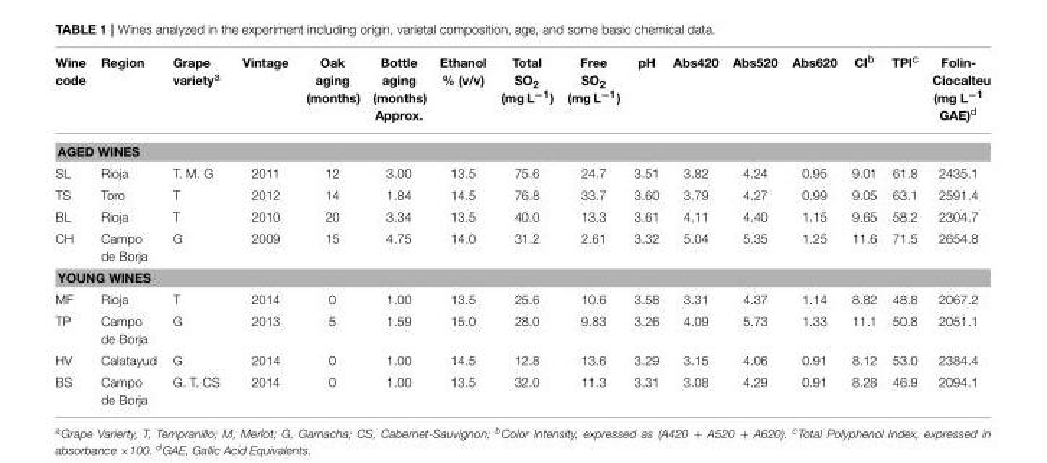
<table><thead><tr><td>Wine code</td><td>Region</td><td>Grape variety<sup>a</sup></td><td>Vintage</td><td>Oak aging (months)</td><td>Bottle aging (months) Approx.</td><td>Ethanol % (v/v)</td><td>Total SO<sub>2</sub> (mg L<sup>−1</sup>)</td><td>Free SO<sub>2</sub> (mg L<sup>−1</sup>)</td><td>pH</td><td>Abs420</td><td>Abs520</td><td>Abs620</td><td>CI<sup>b</sup></td><td>TPI<sup>c</sup></td><td>Folin- Ciocalteu (mg L<sup>−1</sup> GAE)<sup>d</sup></td></tr></thead><tbody><tr><td colspan="16">AGED WINES</td></tr><tr><td>SL</td><td>Rioja</td><td>T. M. G</td><td>2011</td><td>12</td><td>3.00</td><td>13.5</td><td>75.6</td><td>24.7</td><td>3.51</td><td>3.82</td><td>4.24</td><td>0.95</td><td>9.01</td><td>61.8</td><td>2435.1</td></tr><tr><td>TS</td><td>Toro</td><td>T</td><td>2012</td><td>14</td><td>1.84</td><td>14.5</td><td>76.8</td><td>33.7</td><td>3.60</td><td>3.79</td><td>4.27</td><td>0.99</td><td>9.05</td><td>63.1</td><td>2591.4</td></tr><tr><td>BL</td><td>Rioja</td><td>T</td><td>2010</td><td>20</td><td>3.34</td><td>13.5</td><td>40.0</td><td>13.3</td><td>3.61</td><td>4.11</td><td>4.40</td><td>1.15</td><td>9.65</td><td>58.2</td><td>2304.7</td></tr><tr><td>CH</td><td>Campo de Borja</td><td>G</td><td>2009</td><td>15</td><td>4.75</td><td>14.0</td><td>31.2</td><td>2.61</td><td>3.32</td><td>5.04</td><td>5.35</td><td>1.25</td><td>11.6</td><td>71.5</td><td>2654.8</td></tr><tr><td colspan="16">YOUNG WINES</td></tr><tr><td>MF</td><td>Rioja</td><td>T</td><td>2014</td><td>0</td><td>1.00</td><td>13.5</td><td>25.6</td><td>10.6</td><td>3.58</td><td>3.31</td><td>4.37</td><td>1.14</td><td>8.82</td><td>48.8</td><td>2067.2</td></tr><tr><td>TP</td><td>Campo de Borja</td><td>G</td><td>2013</td><td>5</td><td>1.59</td><td>15.0</td><td>28.0</td><td>9.83</td><td>3.26</td><td>4.09</td><td>5.73</td><td>1.33</td><td>11.1</td><td>50.8</td><td>2051.1</td></tr><tr><td>HV</td><td>Calatayud</td><td>G</td><td>2014</td><td>0</td><td>1.00</td><td>14.5</td><td>12.8</td><td>13.6</td><td>3.29</td><td>3.15</td><td>4.06</td><td>0.91</td><td>8.12</td><td>53.0</td><td>2384.4</td></tr><tr><td>BS</td><td>Campo de Borja</td><td>G. T. CS</td><td>2014</td><td>0</td><td>1.00</td><td>13.5</td><td>32.0</td><td>11.3</td><td>3.31</td><td>3.08</td><td>4.29</td><td>0.91</td><td>8.28</td><td>46.9</td><td>2094.1</td></tr></tbody></table>